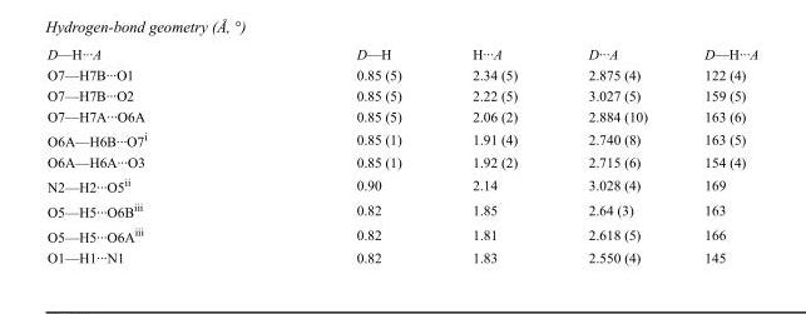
<table><tbody><tr><td>D—H···A</td><td>D—H</td><td>H···A</td><td>D···A</td><td>D—H···A</td></tr><tr><td>O7—H7B···O1</td><td>0.85 (5)</td><td>2.34 (5)</td><td>2.875 (4)</td><td>122 (4)</td></tr><tr><td>O7—H7B···O2</td><td>0.85 (5)</td><td>2.22 (5)</td><td>3.027 (5)</td><td>159 (5)</td></tr><tr><td>O7—H7A···O6A</td><td>0.85 (5)</td><td>2.06 (2)</td><td>2.884 (10)</td><td>163 (6)</td></tr><tr><td>O6A—H6B···O7<sup>i</sup></td><td>0.85 (1)</td><td>1.91 (4)</td><td>2.740 (8)</td><td>163 (5)</td></tr><tr><td>O6A—H6A···O3</td><td>0.85 (1)</td><td>1.92 (2)</td><td>2.715 (6)</td><td>154 (4)</td></tr><tr><td>N2—H2···O5<sup>ii</sup></td><td>0.90</td><td>2.14</td><td>3.028 (4)</td><td>169</td></tr><tr><td>O5—H5···O6B<sup>iii</sup></td><td>0.82</td><td>1.85</td><td>2.64 (3)</td><td>163</td></tr><tr><td>O5—H5···O6A<sup>iii</sup></td><td>0.82</td><td>1.81</td><td>2.618 (5)</td><td>166</td></tr><tr><td>O1—H1···N1</td><td>0.82</td><td>1.83</td><td>2.550 (4)</td><td>145</td></tr></tbody></table>